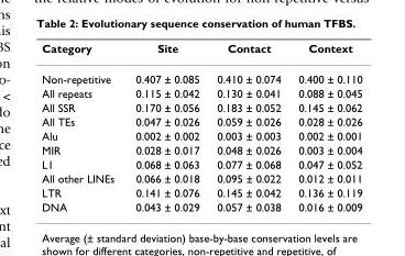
<table><thead><tr><td>Category</td><td>Site</td><td>Contact</td><td>Context</td></tr></thead><tbody><tr><td>Non-repetitive</td><td>0.407 ± 0.085</td><td>0.410 ± 0.074</td><td>0.400 ± 0.110</td></tr><tr><td>All repeats</td><td>0.115 ± 0.042</td><td>0.130 ± 0.041</td><td>0.088 ± 0.045</td></tr><tr><td>All SSR</td><td>0.170 ± 0.056</td><td>0.183 ± 0.052</td><td>0.145 ± 0.062</td></tr><tr><td>All TEs</td><td>0.047 ± 0.026</td><td>0.059 ± 0.026</td><td>0.028 ± 0.026</td></tr><tr><td>Alu</td><td>0.002 ± 0.002</td><td>0.003 ± 0.003</td><td>0.002 ± 0.001</td></tr><tr><td>MIR</td><td>0.028 ± 0.017</td><td>0.048 ± 0.026</td><td>0.003 ± 0.004</td></tr><tr><td>L1</td><td>0.068 ± 0.063</td><td>0.077 ± 0.068</td><td>0.047 ± 0.052</td></tr><tr><td>All other LINEs</td><td>0.066 ± 0.018</td><td>0.095 ± 0.022</td><td>0.012 ± 0.011</td></tr><tr><td>LTR</td><td>0.141 ± 0.076</td><td>0.145 ± 0.042</td><td>0.136 ± 0.119</td></tr><tr><td>DNA</td><td>0.043 ± 0.029</td><td>0.057 ± 0.038</td><td>0.016 ± 0.009</td></tr></tbody></table>